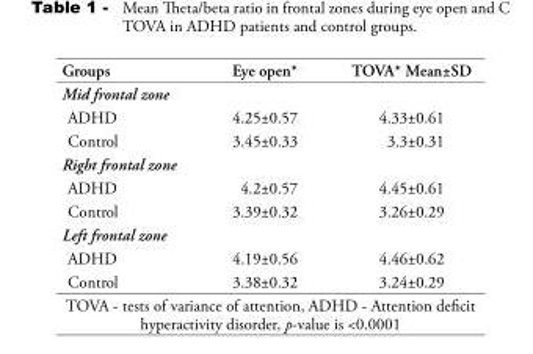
<table><thead><tr><td>Groups</td><td>Eye open*</td><td>TOVA* Mean±SD</td></tr></thead><tbody><tr><td colspan="3">Mid frontal zone</td></tr><tr><td>ADHD</td><td>4.25±0.57</td><td>4.33±0.61</td></tr><tr><td>Control</td><td>3.45±0.33</td><td>3.3±0.31</td></tr><tr><td colspan="3">Right frontal zone</td></tr><tr><td>ADHD</td><td>4.2±0.57</td><td>4.45±0.61</td></tr><tr><td>Control</td><td>3.39±0.32</td><td>3.26±0.29</td></tr><tr><td colspan="3">Left frontal zone</td></tr><tr><td>ADHD</td><td>4.19±0.56</td><td>4.46±0.62</td></tr><tr><td>Control</td><td>3.38±0.32</td><td>3.24±0.29</td></tr></tbody></table>